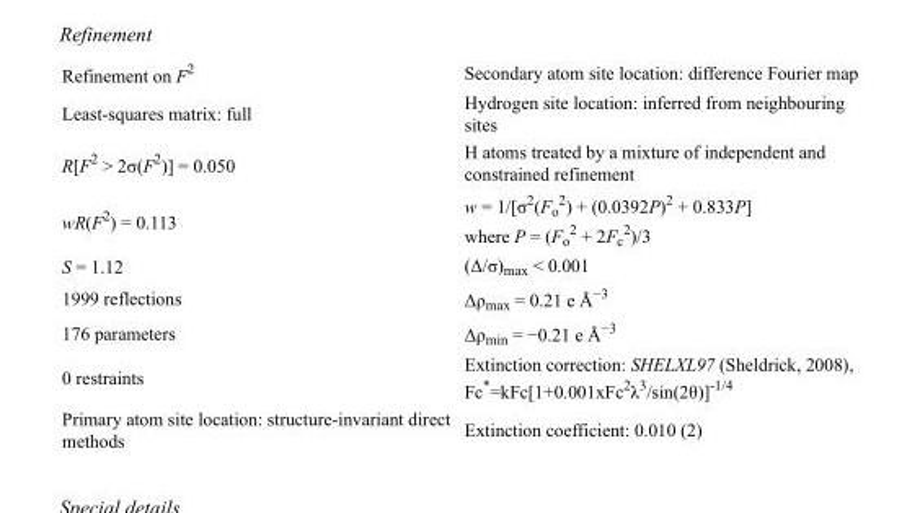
<table><tbody><tr><td>Refinement on F<sup>2</sup></td><td>Secondary atom site location: difference Fourier map</td></tr><tr><td>Least-squares matrix: full</td><td>Hydrogen site location: inferred from neighbouring sites</td></tr><tr><td>R[F<sup>2</sup> &gt; 2σ(F<sup>2</sup>)] = 0.050</td><td>H atoms treated by a mixture of independent and constrained refinement</td></tr><tr><td>wR(F<sup>2</sup>) = 0.113</td><td>w = 1/[σ<sup>2</sup>(F<sub>o</sub> <sup>2</sup>) + (0.0392P)<sup>2</sup> + 0.833P] where P = (F<sub>o</sub> <sup>2</sup> + 2F<sub>c</sub> <sup>2</sup>)/3</td></tr><tr><td>S = 1.12</td><td>(Δ/σ)<sub>max</sub> &lt; 0.001</td></tr><tr><td>1999 reflections</td><td>Δρ<sub>max</sub> = 0.21 e Å<sup>−3</sup></td></tr><tr><td>176 parameters</td><td>Δρ<sub>min</sub> = −0.21 e Å<sup>−3</sup></td></tr><tr><td>0 restraints</td><td>Extinction correction: SHELXL97 (Sheldrick, 2008), Fc*=kFc[1+0.001xFc<sup>2</sup>λ<sup>3</sup>/sin(2θ)]<sup>-1/4</sup></td></tr><tr><td>Primary atom site location: structure-invariant direct methods</td><td>Extinction coefficient: 0.010 (2)</td></tr></tbody></table>